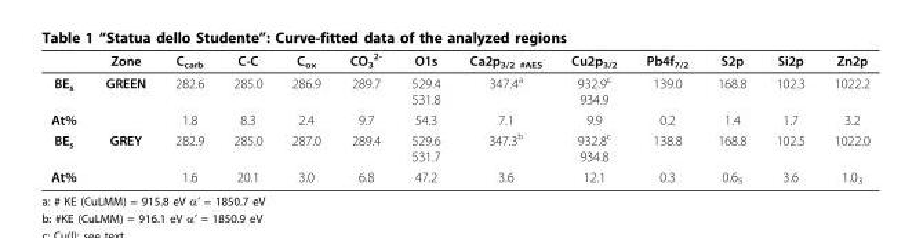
<table><thead><tr><td></td><td>Zone</td><td>C<sub>carb</sub></td><td>C-C</td><td>C<sub>ox</sub></td><td>CO<sub>3</sub> <sup>2-</sup></td><td>O1s</td><td>Ca2p<sub>3/2 #AES</sub></td><td>Cu2p<sub>3/2</sub></td><td>Pb4f<sub>7/2</sub></td><td>S2p</td><td>Si2p</td><td>Zn2p</td></tr></thead><tbody><tr><td>BE<sub>s</sub></td><td>GREEN</td><td>282.6</td><td>285.0</td><td>286.9</td><td>289.7</td><td>529.4 531.8</td><td>347.4<sup>a</sup></td><td>932.9<sup>c</sup> 934.9</td><td>139.0</td><td>168.8</td><td>102.3</td><td>1022.2</td></tr><tr><td>At%</td><td></td><td>1.8</td><td>8.3</td><td>2.4</td><td>9.7</td><td>54.3</td><td>7.1</td><td>9.9</td><td>0.2</td><td>1.4</td><td>1.7</td><td>3.2</td></tr><tr><td>BE<sub>s</sub></td><td>GREY</td><td>282.9</td><td>285.0</td><td>287.0</td><td>289.4</td><td>529.6 531.7</td><td>347.3<sup>b</sup></td><td>932.8<sup>c</sup> 934.8</td><td>138.8</td><td>168.8</td><td>102.5</td><td>1022.0</td></tr><tr><td>At%</td><td></td><td>1.6</td><td>20.1</td><td>3.0</td><td>6.8</td><td>47.2</td><td>3.6</td><td>12.1</td><td>0.3</td><td>0.6<sub>5</sub></td><td>3.6</td><td>1.0<sub>3</sub></td></tr></tbody></table>